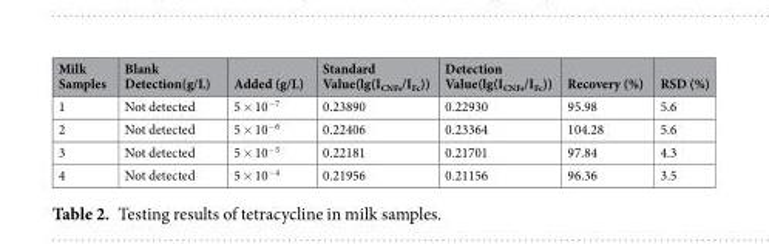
<table><thead><tr><td>Milk Samples</td><td>Blank Detection(g/L)</td><td>Added (g/L)</td><td>Standard Value(lg(I<sub>CNFs</sub>/I<sub>Fc</sub>))</td><td>Detection Value(lg(I<sub>CNFs</sub>/I<sub>Fc</sub>))</td><td>Recovery (%)</td><td>RSD (%)</td></tr></thead><tbody><tr><td>1</td><td>Not detected</td><td>5 × 10<sup>−7</sup></td><td>0.23890</td><td>0.22930</td><td>95.98</td><td>5.6</td></tr><tr><td>2</td><td>Not detected</td><td>5 × 10<sup>−6</sup></td><td>0.22406</td><td>0.23364</td><td>104.28</td><td>5.6</td></tr><tr><td>3</td><td>Not detected</td><td>5 × 10<sup>−5</sup></td><td>0.22181</td><td>0.21701</td><td>97.84</td><td>4.3</td></tr><tr><td>4</td><td>Not detected</td><td>5 × 10<sup>−4</sup></td><td>0.21956</td><td>0.21156</td><td>96.36</td><td>3.5</td></tr></tbody></table>